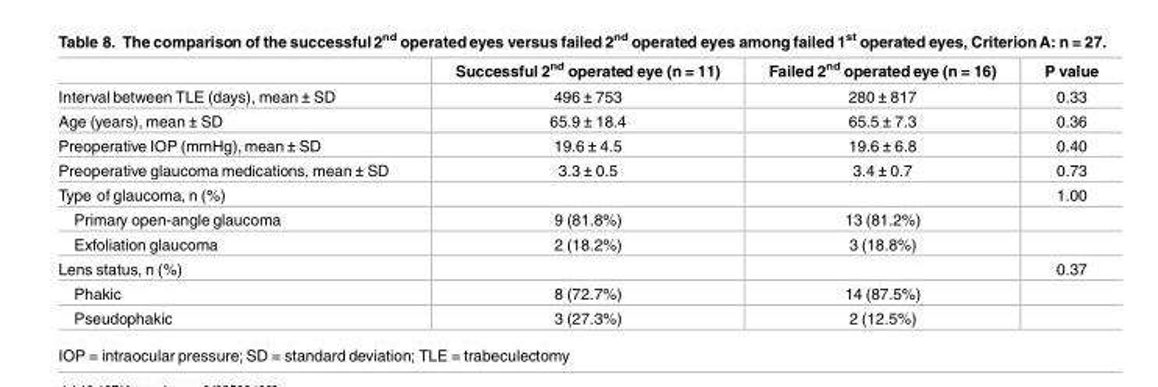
<table><thead><tr><td></td><td>Successful 2<sup>nd</sup> operated eye (n = 11)</td><td>Failed 2<sup>nd</sup> operated eye (n = 16)</td><td>P value</td></tr></thead><tbody><tr><td>Interval between TLE (days), mean ± SD</td><td>496 ± 753</td><td>280 ± 817</td><td>0.33</td></tr><tr><td>Age (years), mean ± SD</td><td>65.9 ± 18.4</td><td>65.5 ± 7.3</td><td>0.36</td></tr><tr><td>Preoperative IOP (mmHg), mean ± SD</td><td>19.6 ± 4.5</td><td>19.6 ± 6.8</td><td>0.40</td></tr><tr><td>Preoperative glaucoma medications, mean ± SD</td><td>3.3 ± 0.5</td><td>3.4 ± 0.7</td><td>0.73</td></tr><tr><td>Type of glaucoma, n (%)</td><td></td><td></td><td>1.00</td></tr><tr><td>Primary open-angle glaucoma</td><td>9 (81.8%)</td><td>13 (81.2%)</td><td></td></tr><tr><td>Exfoliation glaucoma</td><td>2 (18.2%)</td><td>3 (18.8%)</td><td></td></tr><tr><td>Lens status, n (%)</td><td></td><td></td><td>0.37</td></tr><tr><td>Phakic</td><td>8 (72.7%)</td><td>14 (87.5%)</td><td></td></tr><tr><td>Pseudophakic</td><td>3 (27.3%)</td><td>2 (12.5%)</td><td></td></tr></tbody></table>